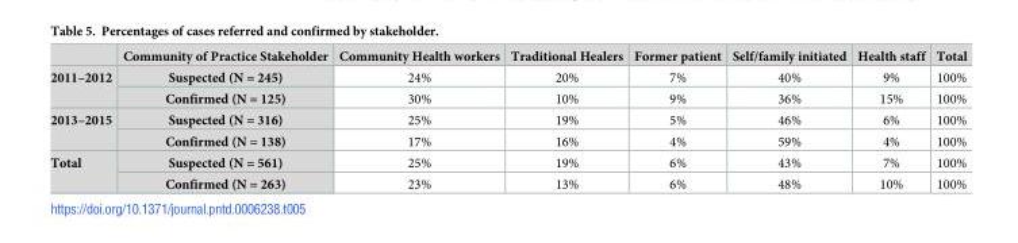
<table><thead><tr><td></td><td>Community of Practice Stakeholder</td><td>Community Health workers</td><td>Traditional Healers</td><td>Former patient</td><td>Self/family initiated</td><td>Health staff</td><td>Total</td></tr></thead><tbody><tr><td rowspan="2">2011–2012</td><td>Suspected (N = 245)</td><td>24%</td><td>20%</td><td>7%</td><td>40%</td><td>9%</td><td>100%</td></tr><tr><td>Confirmed (N = 125)</td><td>30%</td><td>10%</td><td>9%</td><td>36%</td><td>15%</td><td>100%</td></tr><tr><td rowspan="2">2013–2015</td><td>Suspected (N = 316)</td><td>25%</td><td>19%</td><td>5%</td><td>46%</td><td>6%</td><td>100%</td></tr><tr><td>Confirmed (N = 138)</td><td>17%</td><td>16%</td><td>4%</td><td>59%</td><td>4%</td><td>100%</td></tr><tr><td rowspan="2">Total</td><td>Suspected (N = 561)</td><td>25%</td><td>19%</td><td>6%</td><td>43%</td><td>7%</td><td>100%</td></tr><tr><td>Confirmed (N = 263)</td><td>23%</td><td>13%</td><td>6%</td><td>48%</td><td>10%</td><td>100%</td></tr></tbody></table>